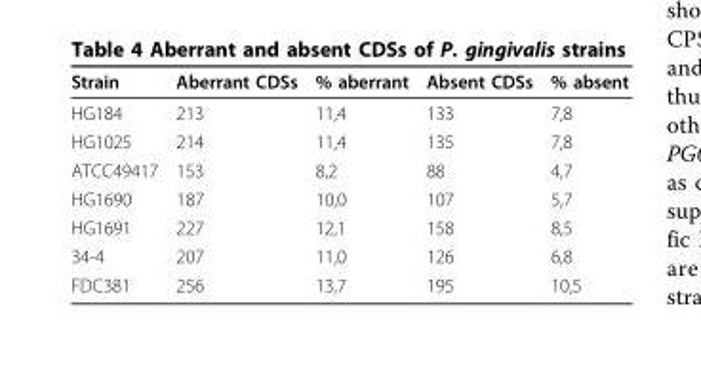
<table><thead><tr><td>Strain</td><td>Aberrant CDSs</td><td>% aberrant</td><td>Absent CDSs</td><td>% absent</td></tr></thead><tbody><tr><td>HG184</td><td>213</td><td>11,4</td><td>133</td><td>7,8</td></tr><tr><td>HG1025</td><td>214</td><td>11,4</td><td>135</td><td>7,8</td></tr><tr><td>ATCC49417</td><td>153</td><td>8,2</td><td>88</td><td>4,7</td></tr><tr><td>HG1690</td><td>187</td><td>10,0</td><td>107</td><td>5,7</td></tr><tr><td>HG1691</td><td>227</td><td>12,1</td><td>158</td><td>8,5</td></tr><tr><td>34-4</td><td>207</td><td>11,0</td><td>126</td><td>6,8</td></tr><tr><td>FDC381</td><td>256</td><td>13,7</td><td>195</td><td>10,5</td></tr></tbody></table>